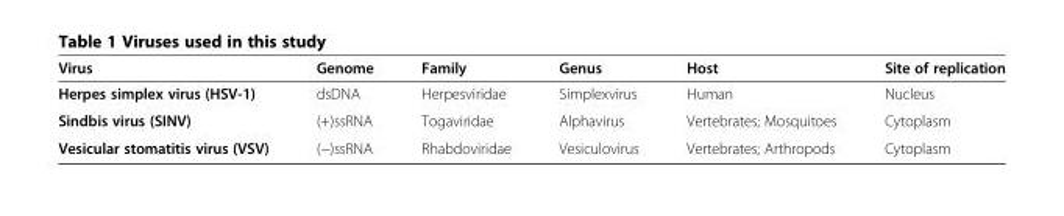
<table><thead><tr><td>Virus</td><td>Genome</td><td>Family</td><td>Genus</td><td>Host</td><td>Site of replication</td></tr></thead><tbody><tr><td>Herpes simplex virus (HSV-1)</td><td>dsDNA</td><td>Herpesviridae</td><td>Simplexvirus</td><td>Human</td><td>Nucleus</td></tr><tr><td>Sindbis virus (SINV)</td><td>(+)ssRNA</td><td>Togaviridae</td><td>Alphavirus</td><td>Vertebrates; Mosquitoes</td><td>Cytoplasm</td></tr><tr><td>Vesicular stomatitis virus (VSV)</td><td>(−)ssRNA</td><td>Rhabdoviridae</td><td>Vesiculovirus</td><td>Vertebrates; Arthropods</td><td>Cytoplasm</td></tr></tbody></table>